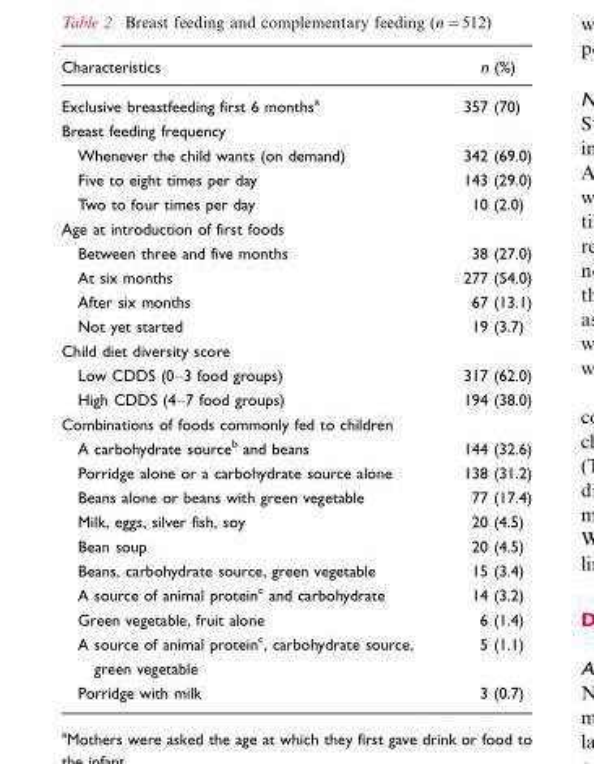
<table><thead><tr><td>Characteristics</td><td>n (%)</td></tr></thead><tbody><tr><td>Exclusive breastfeeding first 6 months<sup>a</sup></td><td>357 (70)</td></tr><tr><td colspan="2">Breast feeding frequency</td></tr><tr><td>Whenever the child wants (on demand)</td><td>342 (69.0)</td></tr><tr><td>Five to eight times per day</td><td>143 (29.0)</td></tr><tr><td>Two to four times per day</td><td>10 (2.0)</td></tr><tr><td colspan="2">Age at introduction of first foods</td></tr><tr><td>Between three and five months</td><td>38 (27.0)</td></tr><tr><td>At six months</td><td>277 (54.0)</td></tr><tr><td>After six months</td><td>67 (13.1)</td></tr><tr><td>Not yet started</td><td>19 (3.7)</td></tr><tr><td colspan="2">Child diet diversity score</td></tr><tr><td>Low CDDS (0–3 food groups)</td><td>317 (62.0)</td></tr><tr><td>High CDDS (4–7 food groups)</td><td>194 (38.0)</td></tr><tr><td colspan="2">Combinations of foods commonly fed to children</td></tr><tr><td>A carbohydrate source<sup>b</sup> and beans</td><td>144 (32.6)</td></tr><tr><td>Porridge alone or a carbohydrate source alone</td><td>138 (31.2)</td></tr><tr><td>Beans alone or beans with green vegetable</td><td>77 (17.4)</td></tr><tr><td>Milk, eggs, silver fish, soy</td><td>20 (4.5)</td></tr><tr><td>Bean soup</td><td>20 (4.5)</td></tr><tr><td>Beans, carbohydrate source, green vegetable</td><td>15 (3.4)</td></tr><tr><td>A source of animal protein<sup>c</sup> and carbohydrate</td><td>14 (3.2)</td></tr><tr><td>Green vegetable, fruit alone</td><td>6 (1.4)</td></tr><tr><td>A source of animal protein<sup>c</sup>, carbohydrate source, green vegetable</td><td>5 (1.1)</td></tr><tr><td>Porridge with milk</td><td>3 (0.7)</td></tr></tbody></table>